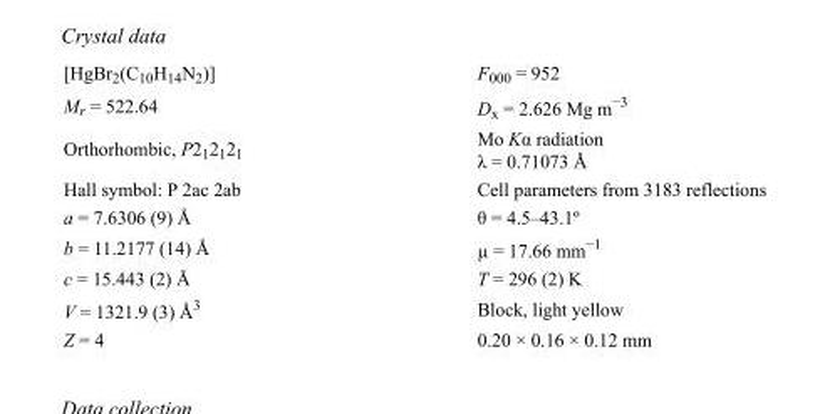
<table><tbody><tr><td>[HgBr<sub>2</sub>(C<sub>10</sub>H<sub>14</sub>N<sub>2</sub>)]</td><td>F000 = 952</td></tr><tr><td>M<sub>r</sub> = 522.64</td><td>D<sub>x</sub> = 2.626 Mg m<sup>−3</sup></td></tr><tr><td>Orthorhombic, P2<sub>1</sub>2<sub>1</sub>2<sub>1</sub></td><td>Mo Kα radiation λ = 0.71073 Å</td></tr><tr><td>Hall symbol: P 2ac 2ab</td><td>Cell parameters from 3183 reflections</td></tr><tr><td>a = 7.6306 (9) Å</td><td>θ = 4.5–43.1º</td></tr><tr><td>b = 11.2177 (14) Å</td><td>µ = 17.66 mm<sup>−1</sup></td></tr><tr><td>c = 15.443 (2) Å</td><td>T = 296 (2) K</td></tr><tr><td>V = 1321.9 (3) Å<sup>3</sup></td><td>Block, light yellow</td></tr><tr><td>Z = 4</td><td>0.20 × 0.16 × 0.12 mm</td></tr></tbody></table>